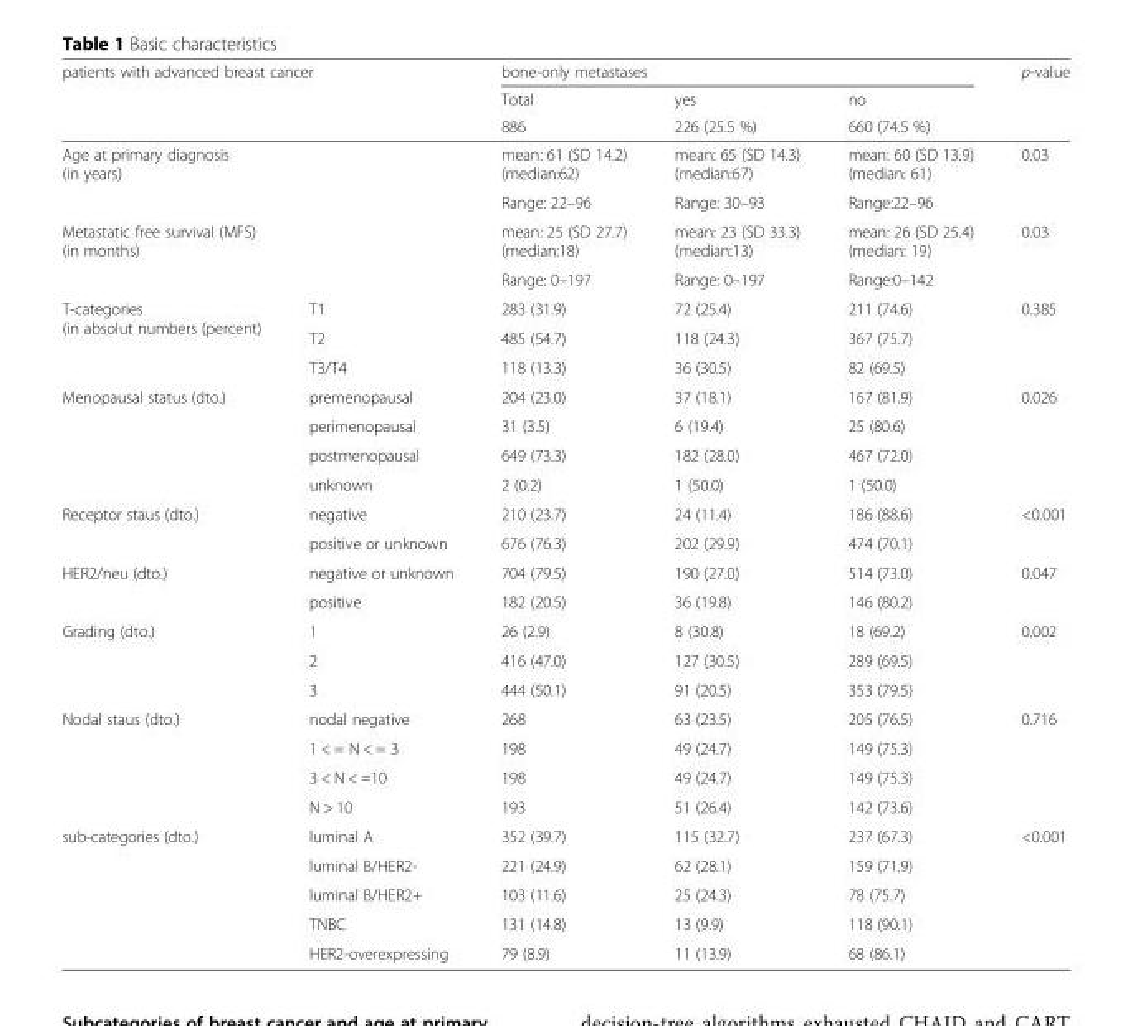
<table><thead><tr><td rowspan="3" colspan="2">patients with advanced breast cancer</td><td colspan="3">bone-only metastases</td><td rowspan="3">p-value</td></tr><tr><td rowspan="2">Total 886</td><td rowspan="2">yes 226 (25.5 %)</td><td rowspan="2">no 660 (74.5 %)</td></tr><tr></tr></thead><tbody><tr><td rowspan="2" colspan="2">Age at primary diagnosis (in years)</td><td>mean: 61 (SD 14.2) (median:62)</td><td>mean: 65 (SD 14.3) (median:67)</td><td>mean: 60 (SD 13.9) (median: 61)</td><td>0.03</td></tr><tr><td>Range: 22–96</td><td>Range: 30–93</td><td>Range:22–96</td><td></td></tr><tr><td rowspan="2" colspan="2">Metastatic free survival (MFS) (in months)</td><td>mean: 25 (SD 27.7) (median:18)</td><td>mean: 23 (SD 33.3) (median:13)</td><td>mean: 26 (SD 25.4) (median: 19)</td><td>0.03</td></tr><tr><td>Range: 0–197</td><td>Range: 0–197</td><td>Range:0–142</td><td></td></tr><tr><td rowspan="3">T-categories (in absolut numbers (percent)</td><td>T1</td><td>283 (31.9)</td><td>72 (25.4)</td><td>211 (74.6)</td><td rowspan="3">0.385</td></tr><tr><td>T2</td><td>485 (54.7)</td><td>118 (24.3)</td><td>367 (75.7)</td></tr><tr><td>T3/T4</td><td>118 (13.3)</td><td>36 (30.5)</td><td>82 (69.5)</td></tr><tr><td rowspan="4">Menopausal status (dto.)</td><td>premenopausal</td><td>204 (23.0)</td><td>37 (18.1)</td><td>167 (81.9)</td><td rowspan="4">0.026</td></tr><tr><td>perimenopausal</td><td>31 (3.5)</td><td>6 (19.4)</td><td>25 (80.6)</td></tr><tr><td>postmenopausal</td><td>649 (73.3)</td><td>182 (28.0)</td><td>467 (72.0)</td></tr><tr><td>unknown</td><td>2 (0.2)</td><td>1 (50.0)</td><td>1 (50.0)</td></tr><tr><td rowspan="2">Receptor staus (dto.)</td><td>negative</td><td>210 (23.7)</td><td>24 (11.4)</td><td>186 (88.6)</td><td rowspan="2">&lt;0.001</td></tr><tr><td>positive or unknown</td><td>676 (76.3)</td><td>202 (29.9)</td><td>474 (70.1)</td></tr><tr><td rowspan="2">HER2/neu (dto.)</td><td>negative or unknown</td><td>704 (79.5)</td><td>190 (27.0)</td><td>514 (73.0)</td><td rowspan="2">0.047</td></tr><tr><td>positive</td><td>182 (20.5)</td><td>36 (19.8)</td><td>146 (80.2)</td></tr><tr><td rowspan="3">Grading (dto.)</td><td>1</td><td>26 (2.9)</td><td>8 (30.8)</td><td>18 (69.2)</td><td rowspan="3">0.002</td></tr><tr><td>2</td><td>416 (47.0)</td><td>127 (30.5)</td><td>289 (69.5)</td></tr><tr><td>3</td><td>444 (50.1)</td><td>91 (20.5)</td><td>353 (79.5)</td></tr><tr><td rowspan="4">Nodal staus (dto.)</td><td>nodal negative</td><td>268</td><td>63 (23.5)</td><td>205 (76.5)</td><td rowspan="4">0.716</td></tr><tr><td>1 &lt; = N &lt; = 3</td><td>198</td><td>49 (24.7)</td><td>149 (75.3)</td></tr><tr><td>3 &lt; N &lt; =10</td><td>198</td><td>49 (24.7)</td><td>149 (75.3)</td></tr><tr><td>N &gt; 10</td><td>193</td><td>51 (26.4)</td><td>142 (73.6)</td></tr><tr><td rowspan="5">sub-categories (dto.)</td><td>luminal A</td><td>352 (39.7)</td><td>115 (32.7)</td><td>237 (67.3)</td><td rowspan="5">&lt;0.001</td></tr><tr><td>luminal B/HER2-</td><td>221 (24.9)</td><td>62 (28.1)</td><td>159 (71.9)</td></tr><tr><td>luminal B/HER2+</td><td>103 (11.6)</td><td>25 (24.3)</td><td>78 (75.7)</td></tr><tr><td>TNBC</td><td>131 (14.8)</td><td>13 (9.9)</td><td>118 (90.1)</td></tr><tr><td>HER2-overexpressing</td><td>79 (8.9)</td><td>11 (13.9)</td><td>68 (86.1)</td></tr></tbody></table>